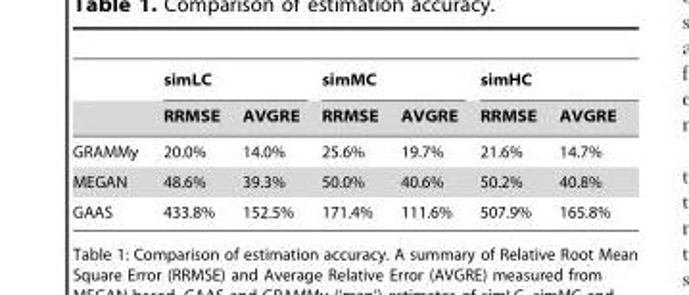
<table><thead><tr><td rowspan="2"></td><td colspan="2">simLC</td><td colspan="2">simMC</td><td colspan="2">simHC</td></tr><tr><td>RRMSE</td><td>AVGRE</td><td>RRMSE</td><td>AVGRE</td><td>RRMSE</td><td>AVGRE</td></tr></thead><tbody><tr><td>GRAMMy</td><td>20.0%</td><td>14.0%</td><td>25.6%</td><td>19.7%</td><td>21.6%</td><td>14.7%</td></tr><tr><td>MEGAN</td><td>48.6%</td><td>39.3%</td><td>50.0%</td><td>40.6%</td><td>50.2%</td><td>40.8%</td></tr><tr><td>GAAS</td><td>433.8%</td><td>152.5%</td><td>171.4%</td><td>111.6%</td><td>507.9%</td><td>165.8%</td></tr></tbody></table>